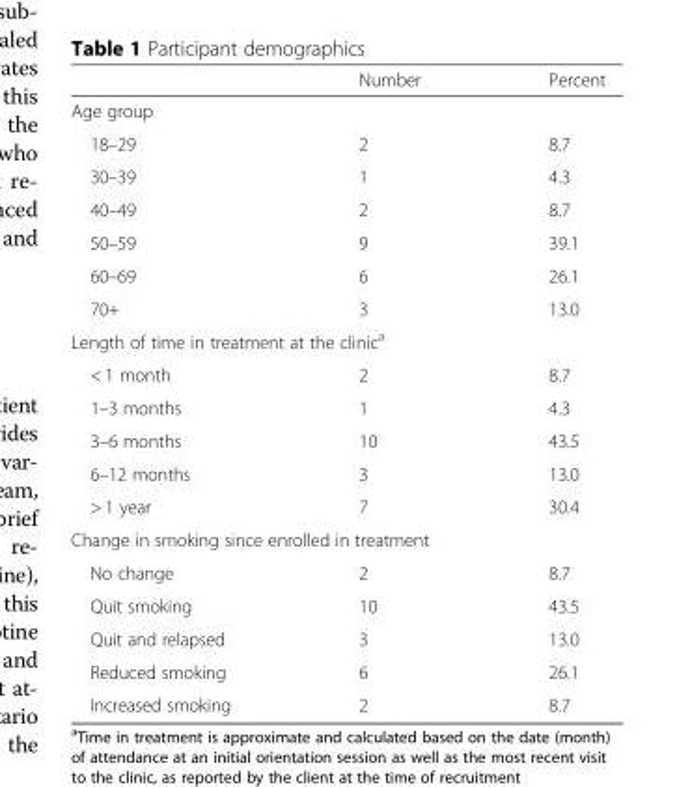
<table><thead><tr><td></td><td>Number</td><td>Percent</td></tr></thead><tbody><tr><td colspan="3">Age group</td></tr><tr><td>18–29</td><td>2</td><td>8.7</td></tr><tr><td>30–39</td><td>1</td><td>4.3</td></tr><tr><td>40–49</td><td>2</td><td>8.7</td></tr><tr><td>50–59</td><td>9</td><td>39.1</td></tr><tr><td>60–69</td><td>6</td><td>26.1</td></tr><tr><td>70+</td><td>3</td><td>13.0</td></tr><tr><td colspan="3">Length of time in treatment at the clinic<sup>a</sup></td></tr><tr><td>&lt; 1 month</td><td>2</td><td>8.7</td></tr><tr><td>1–3 months</td><td>1</td><td>4.3</td></tr><tr><td>3–6 months</td><td>10</td><td>43.5</td></tr><tr><td>6–12 months</td><td>3</td><td>13.0</td></tr><tr><td>&gt; 1 year</td><td>7</td><td>30.4</td></tr><tr><td colspan="3">Change in smoking since enrolled in treatment</td></tr><tr><td>No change</td><td>2</td><td>8.7</td></tr><tr><td>Quit smoking</td><td>10</td><td>43.5</td></tr><tr><td>Quit and relapsed</td><td>3</td><td>13.0</td></tr><tr><td>Reduced smoking</td><td>6</td><td>26.1</td></tr><tr><td>Increased smoking</td><td>2</td><td>8.7</td></tr></tbody></table>